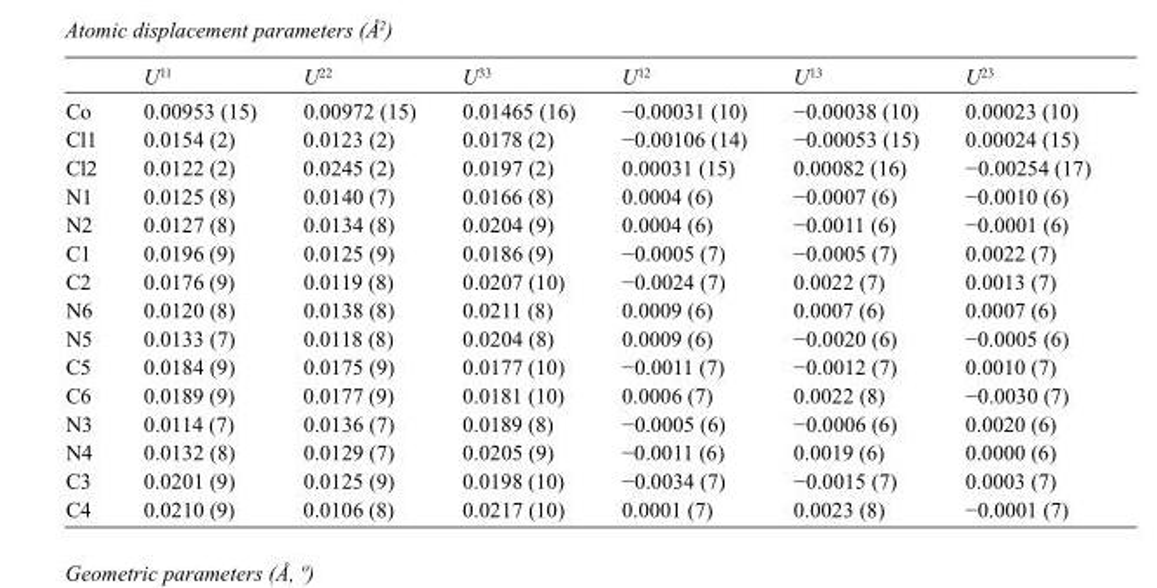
<table><thead><tr><td></td><td>U<sup>11</sup></td><td>U<sup>22</sup></td><td>U<sup>33</sup></td><td>U<sup>12</sup></td><td>U<sup>13</sup></td><td>U<sup>23</sup></td></tr></thead><tbody><tr><td>Co</td><td>0.00953 (15)</td><td>0.00972 (15)</td><td>0.01465 (16)</td><td>−0.00031 (10)</td><td>−0.00038 (10)</td><td>0.00023 (10)</td></tr><tr><td>Cl1</td><td>0.0154 (2)</td><td>0.0123 (2)</td><td>0.0178 (2)</td><td>−0.00106 (14)</td><td>−0.00053 (15)</td><td>0.00024 (15)</td></tr><tr><td>Cl2</td><td>0.0122 (2)</td><td>0.0245 (2)</td><td>0.0197 (2)</td><td>0.00031 (15)</td><td>0.00082 (16)</td><td>−0.00254 (17)</td></tr><tr><td>N1</td><td>0.0125 (8)</td><td>0.0140 (7)</td><td>0.0166 (8)</td><td>0.0004 (6)</td><td>−0.0007 (6)</td><td>−0.0010 (6)</td></tr><tr><td>N2</td><td>0.0127 (8)</td><td>0.0134 (8)</td><td>0.0204 (9)</td><td>0.0004 (6)</td><td>−0.0011 (6)</td><td>−0.0001 (6)</td></tr><tr><td>C1</td><td>0.0196 (9)</td><td>0.0125 (9)</td><td>0.0186 (9)</td><td>−0.0005 (7)</td><td>−0.0005 (7)</td><td>0.0022 (7)</td></tr><tr><td>C2</td><td>0.0176 (9)</td><td>0.0119 (8)</td><td>0.0207 (10)</td><td>−0.0024 (7)</td><td>0.0022 (7)</td><td>0.0013 (7)</td></tr><tr><td>N6</td><td>0.0120 (8)</td><td>0.0138 (8)</td><td>0.0211 (8)</td><td>0.0009 (6)</td><td>0.0007 (6)</td><td>0.0007 (6)</td></tr><tr><td>N5</td><td>0.0133 (7)</td><td>0.0118 (8)</td><td>0.0204 (8)</td><td>0.0009 (6)</td><td>−0.0020 (6)</td><td>−0.0005 (6)</td></tr><tr><td>C5</td><td>0.0184 (9)</td><td>0.0175 (9)</td><td>0.0177 (10)</td><td>−0.0011 (7)</td><td>−0.0012 (7)</td><td>0.0010 (7)</td></tr><tr><td>C6</td><td>0.0189 (9)</td><td>0.0177 (9)</td><td>0.0181 (10)</td><td>0.0006 (7)</td><td>0.0022 (8)</td><td>−0.0030 (7)</td></tr><tr><td>N3</td><td>0.0114 (7)</td><td>0.0136 (7)</td><td>0.0189 (8)</td><td>−0.0005 (6)</td><td>−0.0006 (6)</td><td>0.0020 (6)</td></tr><tr><td>N4</td><td>0.0132 (8)</td><td>0.0129 (7)</td><td>0.0205 (9)</td><td>−0.0011 (6)</td><td>0.0019 (6)</td><td>0.0000 (6)</td></tr><tr><td>C3</td><td>0.0201 (9)</td><td>0.0125 (9)</td><td>0.0198 (10)</td><td>−0.0034 (7)</td><td>−0.0015 (7)</td><td>0.0003 (7)</td></tr><tr><td>C4</td><td>0.0210 (9)</td><td>0.0106 (8)</td><td>0.0217 (10)</td><td>0.0001 (7)</td><td>0.0023 (8)</td><td>−0.0001 (7)</td></tr></tbody></table>